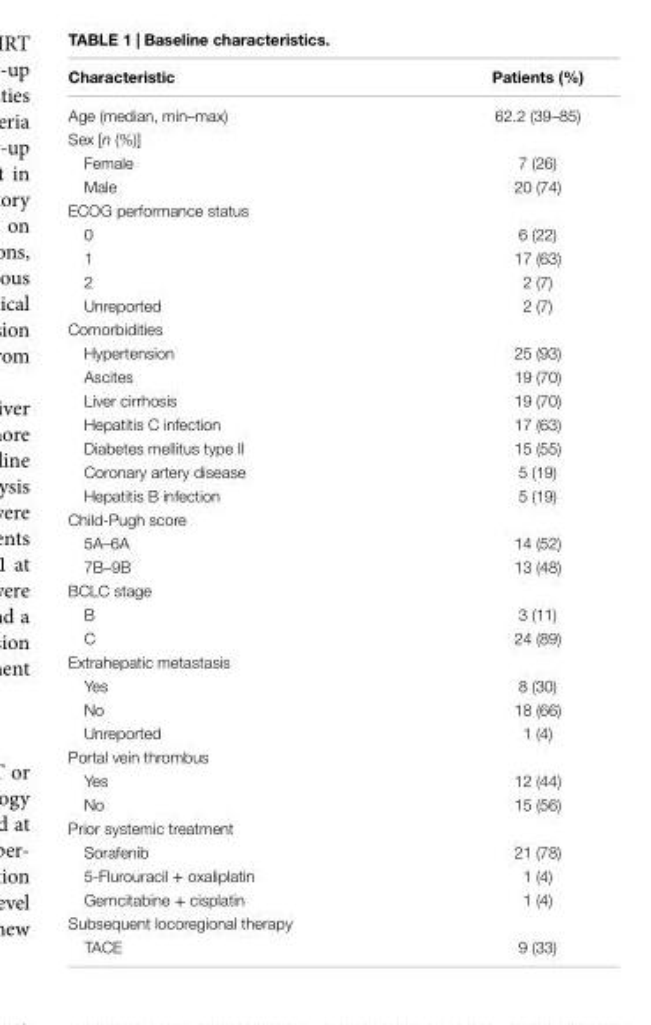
<table><thead><tr><td>characteristic</td><td>Patients (%)</td></tr></thead><tbody><tr><td>Age (median, min–max)</td><td>62.2 (39–85)</td></tr><tr><td colspan="2">Sex [n (%)]</td></tr><tr><td>Female</td><td>7 (26)</td></tr><tr><td>Male</td><td>20 (74)</td></tr><tr><td colspan="2">ECOG performance status</td></tr><tr><td>0</td><td>6 (22)</td></tr><tr><td>1</td><td>17 (63)</td></tr><tr><td>2</td><td>2 (7)</td></tr><tr><td>Unreported</td><td>2 (7)</td></tr><tr><td colspan="2">Comorbidities</td></tr><tr><td>Hypertension</td><td>25 (93)</td></tr><tr><td>Ascites</td><td>19 (70)</td></tr><tr><td>Liver cirrhosis</td><td>19 (70)</td></tr><tr><td>Hepatitis C infection</td><td>17 (63)</td></tr><tr><td>Diabetes mellitus type II</td><td>15 (55)</td></tr><tr><td>Coronary artery disease</td><td>5 (19)</td></tr><tr><td>Hepatitis B infection</td><td>5 (19)</td></tr><tr><td colspan="2">Child-Pugh score</td></tr><tr><td>5A–6A</td><td>14 (52)</td></tr><tr><td>7B–9B</td><td>13 (48)</td></tr><tr><td colspan="2">BCLC stage</td></tr><tr><td>B</td><td>3 (11)</td></tr><tr><td>C</td><td>24 (89)</td></tr><tr><td colspan="2">Extrahepatic metastasis</td></tr><tr><td>Yes</td><td>8 (30)</td></tr><tr><td>No</td><td>18 (66)</td></tr><tr><td>Unreported</td><td>1 (4)</td></tr><tr><td colspan="2">Portal vein thrombus</td></tr><tr><td>Yes</td><td>12 (44)</td></tr><tr><td>No</td><td>15 (56)</td></tr><tr><td colspan="2">Prior systemic treatment</td></tr><tr><td>Sorafenib</td><td>21 (78)</td></tr><tr><td>5-Flurouracil + oxaliplatin</td><td>1 (4)</td></tr><tr><td>Gemcitabine + cisplatin</td><td>1 (4)</td></tr><tr><td colspan="2">Subsequent locoregional therapy</td></tr><tr><td>TACE</td><td>9 (33)</td></tr></tbody></table>